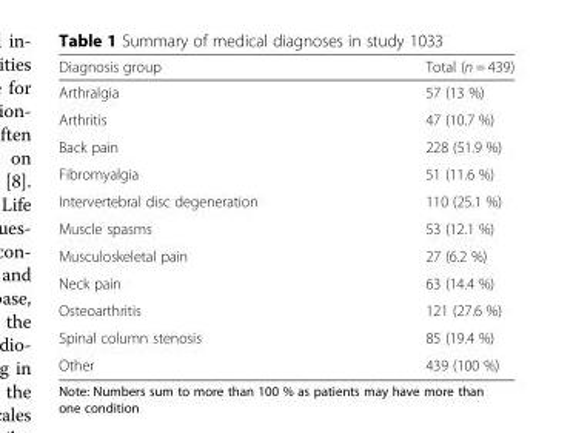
<table><thead><tr><td>Diagnosis group</td><td>Total (n = 439)</td></tr></thead><tbody><tr><td>Arthralgia</td><td>57 (13 %)</td></tr><tr><td>Arthritis</td><td>47 (10.7 %)</td></tr><tr><td>Back pain</td><td>228 (51.9 %)</td></tr><tr><td>Fibromyalgia</td><td>51 (11.6 %)</td></tr><tr><td>Intervertebral disc degeneration</td><td>110 (25.1 %)</td></tr><tr><td>Muscle spasms</td><td>53 (12.1 %)</td></tr><tr><td>Musculoskeletal pain</td><td>27 (6.2 %)</td></tr><tr><td>Neck pain</td><td>63 (14.4 %)</td></tr><tr><td>Osteoarthritis</td><td>121 (27.6 %)</td></tr><tr><td>Spinal column stenosis</td><td>85 (19.4 %)</td></tr><tr><td>Other</td><td>439 (100 %)</td></tr></tbody></table>